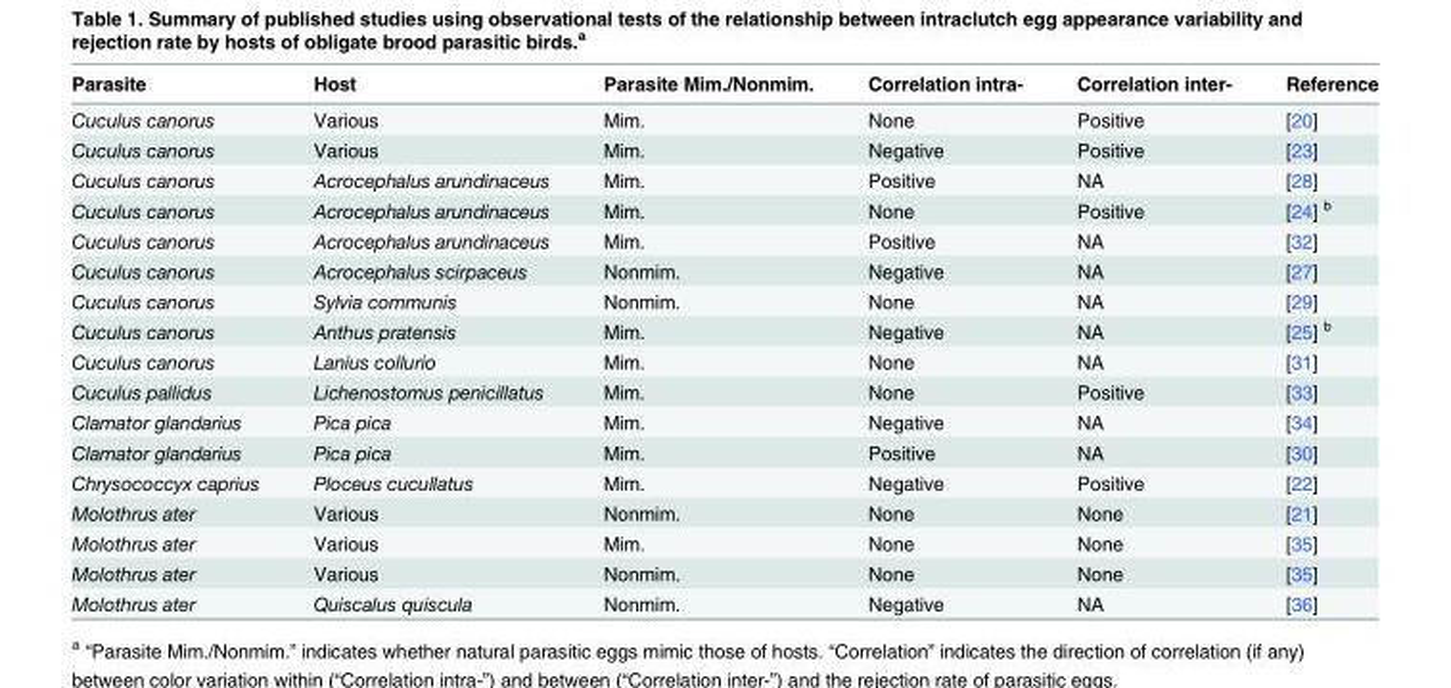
<table><thead><tr><td>Parasite</td><td>Host</td><td>Parasite Mim./Nonmim.</td><td>Correlation intra-</td><td>Correlation inter-</td><td>Reference</td></tr></thead><tbody><tr><td>Cuculus canorus</td><td>Various</td><td>Mim.</td><td>None</td><td>Positive</td><td>[20]</td></tr><tr><td>Cuculus canorus</td><td>Various</td><td>Mim.</td><td>Negative</td><td>Positive</td><td>[23]</td></tr><tr><td>Cuculus canorus</td><td>Acrocephalus arundinaceus</td><td>Mim.</td><td>Positive</td><td>NA</td><td>[28]</td></tr><tr><td>Cuculus canorus</td><td>Acrocephalus arundinaceus</td><td>Mim.</td><td>None</td><td>Positive</td><td>[24] <sup>b</sup></td></tr><tr><td>Cuculus canorus</td><td>Acrocephalus arundinaceus</td><td>Mim.</td><td>Positive</td><td>NA</td><td>[32]</td></tr><tr><td>Cuculus canorus</td><td>Acrocephalus scirpaceus</td><td>Nonmim.</td><td>Negative</td><td>NA</td><td>[27]</td></tr><tr><td>Cuculus canorus</td><td>Sylvia communis</td><td>Nonmim.</td><td>None</td><td>NA</td><td>[29]</td></tr><tr><td>Cuculus canorus</td><td>Anthus pratensis</td><td>Mim.</td><td>Negative</td><td>NA</td><td>[25] <sup>b</sup></td></tr><tr><td>Cuculus canorus</td><td>Lanius collurio</td><td>Mim.</td><td>None</td><td>NA</td><td>[31]</td></tr><tr><td>Cuculus pallidus</td><td>Lichenostomus penicillatus</td><td>Mim.</td><td>None</td><td>Positive</td><td>[33]</td></tr><tr><td>Clamator glandarius</td><td>Pica pica</td><td>Mim.</td><td>Negative</td><td>NA</td><td>[34]</td></tr><tr><td>Clamator glandarius</td><td>Pica pica</td><td>Mim.</td><td>Positive</td><td>NA</td><td>[30]</td></tr><tr><td>Chrysococcyx caprius</td><td>Ploceus cucullatus</td><td>Mim.</td><td>Negative</td><td>Positive</td><td>[22]</td></tr><tr><td>Molothrus ater</td><td>Various</td><td>Nonmim.</td><td>None</td><td>None</td><td>[21]</td></tr><tr><td>Molothrus ater</td><td>Various</td><td>Mim.</td><td>None</td><td>None</td><td>[35]</td></tr><tr><td>Molothrus ater</td><td>Various</td><td>Nonmim.</td><td>None</td><td>None</td><td>[35]</td></tr><tr><td>Molothrus ater</td><td>Quiscalus quiscula</td><td>Nonmim.</td><td>Negative</td><td>NA</td><td>[36]</td></tr></tbody></table>